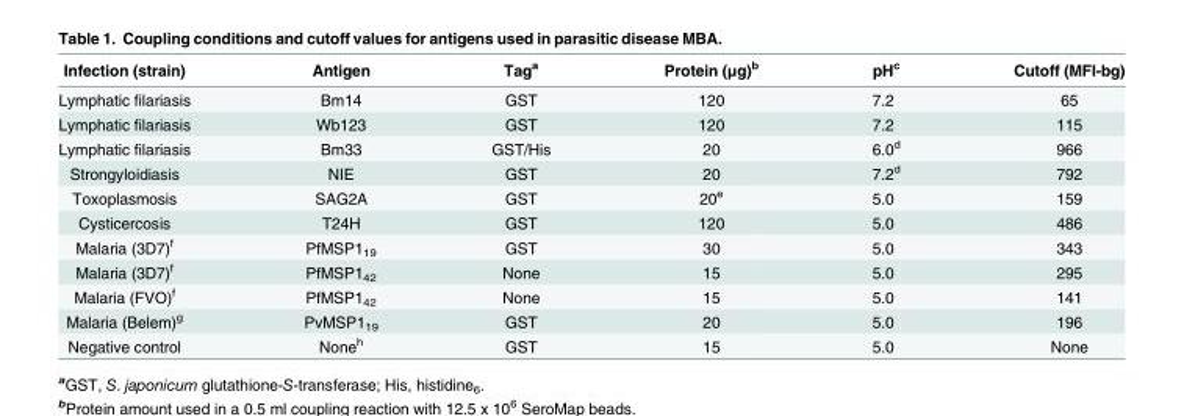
<table><thead><tr><td>Infection (strain)</td><td>Antigen</td><td>Tag<sup>a</sup></td><td>Protein (μg)<sup>b</sup></td><td>pH<sup>c</sup></td><td>Cutoff (MFI-bg)</td></tr></thead><tbody><tr><td>Lymphatic filariasis</td><td>Bm14</td><td>GST</td><td>120</td><td>7.2</td><td>65</td></tr><tr><td>Lymphatic filariasis</td><td>Wb123</td><td>GST</td><td>120</td><td>7.2</td><td>115</td></tr><tr><td>Lymphatic filariasis</td><td>Bm33</td><td>GST/His</td><td>20</td><td>6.0<sup>d</sup></td><td>966</td></tr><tr><td>Strongyloidiasis</td><td>NIE</td><td>GST</td><td>20</td><td>7.2<sup>d</sup></td><td>792</td></tr><tr><td>Toxoplasmosis</td><td>SAG2A</td><td>GST</td><td>20<sup>e</sup></td><td>5.0</td><td>159</td></tr><tr><td>Cysticercosis</td><td>T24H</td><td>GST</td><td>120</td><td>5.0</td><td>486</td></tr><tr><td>Malaria (3D7)<sup>f</sup></td><td>PfMSP1<sub>19</sub></td><td>GST</td><td>30</td><td>5.0</td><td>343</td></tr><tr><td>Malaria (3D7)<sup>f</sup></td><td>PfMSP1<sub>42</sub></td><td>None</td><td>15</td><td>5.0</td><td>295</td></tr><tr><td>Malaria (FVO)<sup>f</sup></td><td>PfMSP1<sub>42</sub></td><td>None</td><td>15</td><td>5.0</td><td>141</td></tr><tr><td>Malaria (Belem)<sup>g</sup></td><td>PvMSP1<sub>19</sub></td><td>GST</td><td>20</td><td>5.0</td><td>196</td></tr><tr><td>Negative control</td><td>None<sup>h</sup></td><td>GST</td><td>15</td><td>5.0</td><td>None</td></tr></tbody></table>